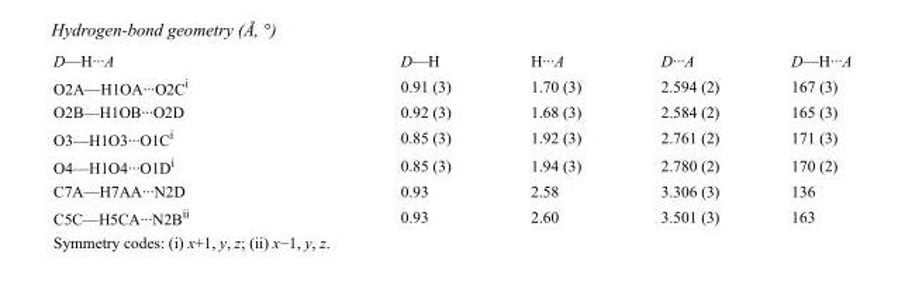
<table><tbody><tr><td>D—H···A</td><td>D—H</td><td>H···A</td><td>D···A</td><td>D—H···A</td></tr><tr><td>O2A—H1OA···O2C<sup>i</sup></td><td>0.91 (3)</td><td>1.70 (3)</td><td>2.594 (2)</td><td>167 (3)</td></tr><tr><td>O2B—H1OB···O2D</td><td>0.92 (3)</td><td>1.68 (3)</td><td>2.584 (2)</td><td>165 (3)</td></tr><tr><td>O3—H1O3···O1C<sup>i</sup></td><td>0.85 (3)</td><td>1.92 (3)</td><td>2.761 (2)</td><td>171 (3)</td></tr><tr><td>O4—H1O4···O1D<sup>i</sup></td><td>0.85 (3)</td><td>1.94 (3)</td><td>2.780 (2)</td><td>170 (2)</td></tr><tr><td>C7A—H7AA···N2D</td><td>0.93</td><td>2.58</td><td>3.306 (3)</td><td>136</td></tr><tr><td>C5C—H5CA···N2B<sup>ii</sup></td><td>0.93</td><td>2.60</td><td>3.501 (3)</td><td>163</td></tr></tbody></table>